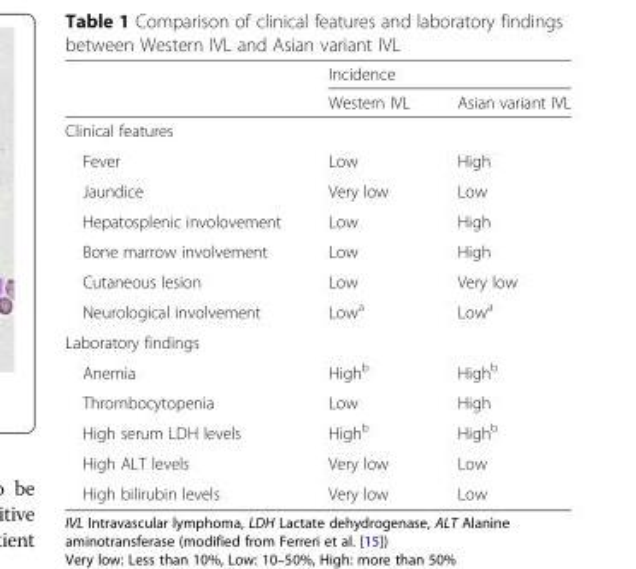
<table><thead><tr><td rowspan="2"></td><td colspan="2">Incidence</td></tr><tr><td>Western IVL</td><td>Asian variant IVL</td></tr></thead><tbody><tr><td colspan="3">Clinical features</td></tr><tr><td>Fever</td><td>Low</td><td>High</td></tr><tr><td>Jaundice</td><td>Very low</td><td>Low</td></tr><tr><td>Hepatosplenic involovement</td><td>Low</td><td>High</td></tr><tr><td>Bone marrow involvement</td><td>Low</td><td>High</td></tr><tr><td>Cutaneous lesion</td><td>Low</td><td>Very low</td></tr><tr><td>Neurological involvement</td><td>Low<sup>a</sup></td><td>Low<sup>a</sup></td></tr><tr><td colspan="3">Laboratory findings</td></tr><tr><td>Anemia</td><td>High<sup>b</sup></td><td>High<sup>b</sup></td></tr><tr><td>Thrombocytopenia</td><td>Low</td><td>High</td></tr><tr><td>High serum LDH levels</td><td>High<sup>b</sup></td><td>High<sup>b</sup></td></tr><tr><td>High ALT levels</td><td>Very low</td><td>Low</td></tr><tr><td>High bilirubin levels</td><td>Very low</td><td>Low</td></tr></tbody></table>